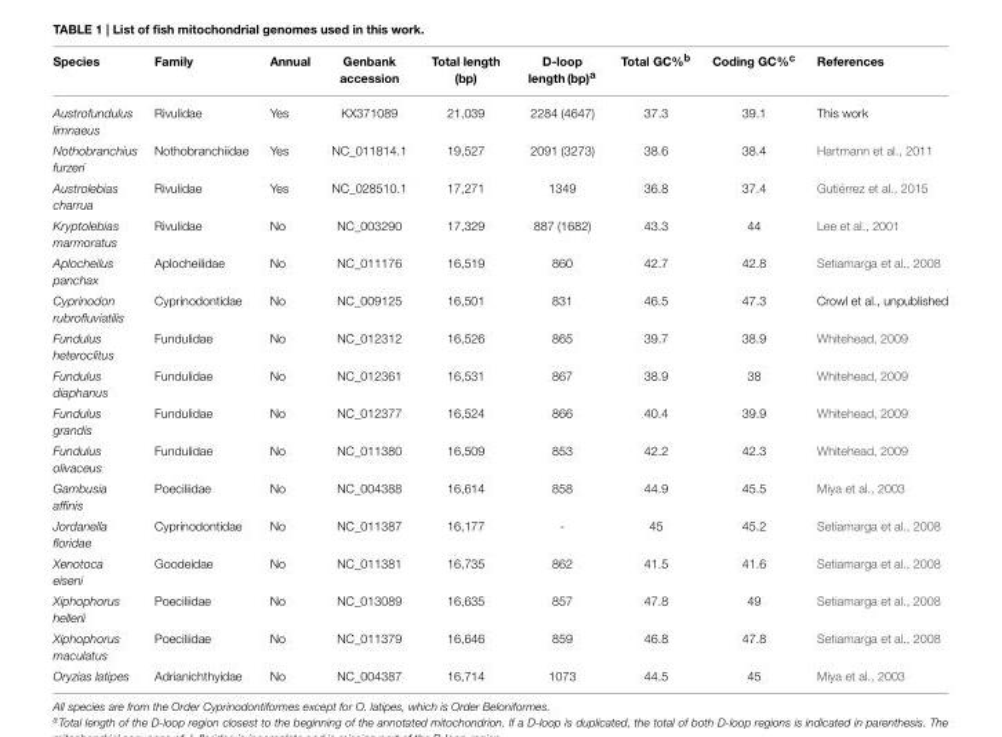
<table><thead><tr><td>Species</td><td>Family</td><td>Annual</td><td>Genbank accession</td><td>Total length (bp)</td><td>D-loop length (bp)<sup>a</sup></td><td>Total GC%<sup>b</sup></td><td>Coding GC%<sup>c</sup></td><td>References</td></tr></thead><tbody><tr><td>Austrofundulus limnaeus</td><td>Rivulidae</td><td>Yes</td><td>KX371089</td><td>21,039</td><td>2284 (4647)</td><td>37.3</td><td>39.1</td><td>This work</td></tr><tr><td>Nothobranchius furzeri</td><td>Nothobranchiidae</td><td>Yes</td><td>NC_011814.1</td><td>19,527</td><td>2091 (3273)</td><td>38.6</td><td>38.4</td><td>Hartmann et al., 2011</td></tr><tr><td>Austrolebias charrua</td><td>Rivulidae</td><td>Yes</td><td>NC_028510.1</td><td>17,271</td><td>1349</td><td>36.8</td><td>37.4</td><td>Gutiérrez et al., 2015</td></tr><tr><td>Kryptolebias marmoratus</td><td>Rivulidae</td><td>No</td><td>NC_003290</td><td>17,329</td><td>887 (1682)</td><td>43.3</td><td>44</td><td>Lee et al., 2001</td></tr><tr><td>Aplocheilus panchax</td><td>Aplocheilidae</td><td>No</td><td>NC_011176</td><td>16,519</td><td>860</td><td>42.7</td><td>42.8</td><td>Setiamarga et al., 2008</td></tr><tr><td>Cyprinodon rubrofluviatilis</td><td>Cyprinodontidae</td><td>No</td><td>NC_009125</td><td>16,501</td><td>831</td><td>46.5</td><td>47.3</td><td>Crowl et al., unpublished</td></tr><tr><td>Fundulus heteroclitus</td><td>Fundulidae</td><td>No</td><td>NC_012312</td><td>16,526</td><td>865</td><td>39.7</td><td>38.9</td><td>Whitehead, 2009</td></tr><tr><td>Fundulus diaphanus</td><td>Fundulidae</td><td>No</td><td>NC_012361</td><td>16,531</td><td>867</td><td>38.9</td><td>38</td><td>Whitehead, 2009</td></tr><tr><td>Fundulus grandis</td><td>Fundulidae</td><td>No</td><td>NC_012377</td><td>16,524</td><td>866</td><td>40.4</td><td>39.9</td><td>Whitehead, 2009</td></tr><tr><td>Fundulus olivaceus</td><td>Fundulidae</td><td>No</td><td>NC_011380</td><td>16,509</td><td>853</td><td>42.2</td><td>42.3</td><td>Whitehead, 2009</td></tr><tr><td>Gambusia affinis</td><td>Poeciliidae</td><td>No</td><td>NC_004388</td><td>16,614</td><td>858</td><td>44.9</td><td>45.5</td><td>Miya et al., 2003</td></tr><tr><td>Jordanella floridae</td><td>Cyprinodontidae</td><td>No</td><td>NC_011387</td><td>16,177</td><td>-</td><td>45</td><td>45.2</td><td>Setiamarga et al., 2008</td></tr><tr><td>Xenotoca eiseni</td><td>Goodeidae</td><td>No</td><td>NC_011381</td><td>16,735</td><td>862</td><td>41.5</td><td>41.6</td><td>Setiamarga et al., 2008</td></tr><tr><td>Xiphophorus hellerii</td><td>Poeciliidae</td><td>No</td><td>NC_013089</td><td>16,635</td><td>857</td><td>47.8</td><td>49</td><td>Setiamarga et al., 2008</td></tr><tr><td>Xiphophorus maculatus</td><td>Poeciliidae</td><td>No</td><td>NC_011379</td><td>16,646</td><td>859</td><td>46.8</td><td>47.8</td><td>Setiamarga et al., 2008</td></tr><tr><td>Oryzias latipes</td><td>Adrianichthyidae</td><td>No</td><td>NC_004387</td><td>16,714</td><td>1073</td><td>44.5</td><td>45</td><td>Miya et al., 2003</td></tr></tbody></table>